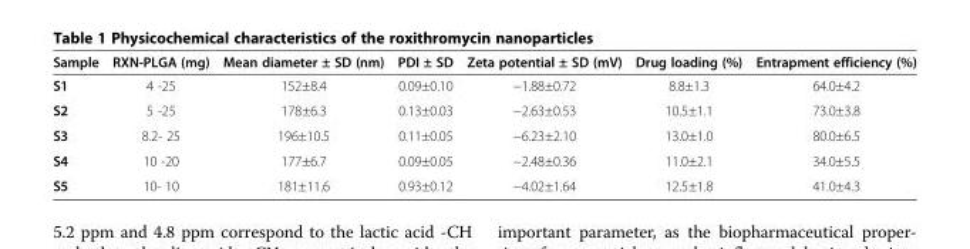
<table><thead><tr><td>Sample</td><td>RXN-PLGA (mg)</td><td>Mean diameter ± SD (nm)</td><td>PDI ± SD</td><td>Zeta potential ± SD (mV)</td><td>Drug loading (%)</td><td>Entrapment efficiency (%)</td></tr></thead><tbody><tr><td>S1</td><td>4 -25</td><td>152±8.4</td><td>0.09±0.10</td><td>−1.88±0.72</td><td>8.8±1.3</td><td>64.0±4.2</td></tr><tr><td>S2</td><td>5 -25</td><td>178±6.3</td><td>0.13±0.03</td><td>−2.63±0.53</td><td>10.5±1.1</td><td>73.0±3.8</td></tr><tr><td>S3</td><td>8.2- 25</td><td>196±10.5</td><td>0.11±0.05</td><td>−6.23±2.10</td><td>13.0±1.0</td><td>80.0±6.5</td></tr><tr><td>S4</td><td>10 -20</td><td>177±6.7</td><td>0.09±0.05</td><td>−2.48±0.36</td><td>11.0±2.1</td><td>34.0±5.5</td></tr><tr><td>S5</td><td>10- 10</td><td>181±11.6</td><td>0.93±0.12</td><td>−4.02±1.64</td><td>12.5±1.8</td><td>41.0±4.3</td></tr></tbody></table>